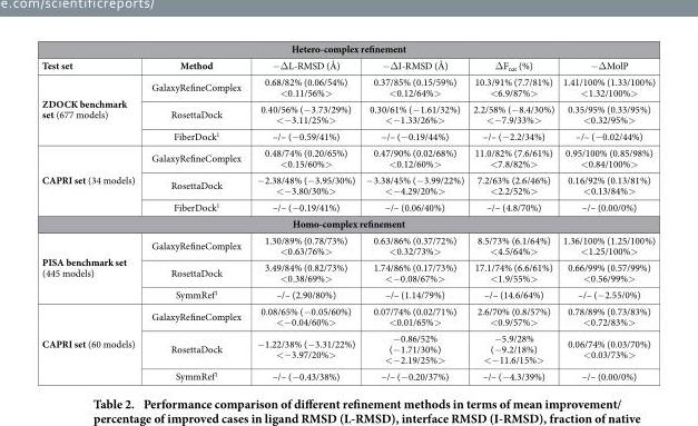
<table><thead><tr><td colspan="6">Hetero-complex refinement</td></tr><tr><td>Test set</td><td>Method</td><td>−Δ L-RMSD (Å)</td><td>−Δ I-RMSD (Å)</td><td>Δ F<sub>nat</sub> (%)</td><td>−Δ MolP</td></tr></thead><tbody><tr><td rowspan="3">ZDOCK benchmark set (677 models)</td><td>GalaxyRefineComplex</td><td>0.68/82% (0.06/54%) &lt; 0.11/56%&gt;</td><td>0.37/85% (0.15/59%) &lt; 0.12/64%&gt;</td><td>10.3/91% (7.7/81%) &lt; 6.9/87%&gt;</td><td>1.41/100% (1.33/100%) &lt; 1.32/100%&gt;</td></tr><tr><td>RosettaDock</td><td>0.40/56% (− 3.73/29%) &lt; − 3.11/25%&gt;</td><td>0.30/61% (− 1.61/32%) &lt; − 1.33/26%&gt;</td><td>2.2/58% (− 8.4/30%) &lt; − 7.9/33%&gt;</td><td>0.35/95% (0.33/95%) &lt; 0.32/95%&gt;</td></tr><tr><td>FiberDock<sup>1</sup></td><td>–/– (− 0.59/41%)</td><td>–/– (− 0.19/44%)</td><td>–/– (− 2.2/34%)</td><td>–/– (− 0.02/44%)</td></tr><tr><td rowspan="3">CAPRI set (34 models)</td><td>GalaxyRefineComplex</td><td>0.48/74% (0.20/65%) &lt; 0.15/60%&gt;</td><td>0.47/90% (0.02/68%) &lt; 0.12/60%&gt;</td><td>11.0/82% (7.6/61%) &lt; 7.8/82%&gt;</td><td>0.95/100% (0.85/98%) &lt; 0.84/100%&gt;</td></tr><tr><td>RosettaDock</td><td>− 2.38/48% (− 3.95/30%) &lt; − 3.80/30%&gt;</td><td>− 3.38/45% (− 3.99/22%) &lt; − 4.29/20%&gt;</td><td>7.2/63% (2.6/46%) &lt; 2.2/52%&gt;</td><td>0.16/92% (0.13/81%) &lt; 0.13/84%&gt;</td></tr><tr><td>FiberDock<sup>1</sup></td><td>–/– (− 0.19/41%)</td><td>–/– (0.06/40%)</td><td>–/– (4.8/70%)</td><td>–/– (0.00/0%)</td></tr><tr><td colspan="6">Homo-complex refinement</td></tr><tr><td rowspan="3">PISA benchmark set (445 models)</td><td>GalaxyRefineComplex</td><td>1.30/89% (0.78/73%) &lt; 0.63/76%&gt;</td><td>0.63/86% (0.37/72%) &lt; 0.32/73%&gt;</td><td>8.5/73% (6.1/64%) &lt; 4.5/64%&gt;</td><td>1.36/100% (1.25/100%) &lt; 1.25/100%&gt;</td></tr><tr><td>RosettaDock</td><td>3.49/84% (0.82/73%) &lt; 0.38/69%&gt;</td><td>1.74/86% (0.17/73%) &lt; − 0.08/67%&gt;</td><td>17.1/74% (6.6/61%) &lt; 1.9/55%&gt;</td><td>0.66/99% (0.57/99%) &lt; 0.56/99%&gt;</td></tr><tr><td>SymmRef<sup>1</sup></td><td>–/– (2.90/80%)</td><td>–/– (1.14/79%)</td><td>–/– (14.6/64%)</td><td>–/– (− 2.55/0%)</td></tr><tr><td rowspan="3">CAPRI set (60 models)</td><td>GalaxyRefineComplex</td><td>0.08/65% (− 0.05/60%) &lt; − 0.04/60%&gt;</td><td>0.07/74% (0.02/71%) &lt; 0.01/65%&gt;</td><td>2.6/70% (0.8/57%) &lt; 0.9/57%&gt;</td><td>0.78/89% (0.73/83%) &lt; 0.72/83%&gt;</td></tr><tr><td>RosettaDock</td><td>− 1.22/38% (− 3.31/22%) &lt; − 3.97/20%&gt;</td><td>− 0.86/52% (− 1.71/30%) &lt; − 2.19/25%&gt;</td><td>− 5.9/28% (− 9.2/18%) &lt; − 11.6/15%&gt;</td><td>0.06/74% (0.03/70%) &lt; 0.03/73%&gt;</td></tr><tr><td>SymmRef<sup>1</sup></td><td>–/– (− 0.43/38%)</td><td>–/– (− 0.20/37%)</td><td>–/– (− 4.3/39%)</td><td>–/– (0.00/0%)</td></tr></tbody></table>